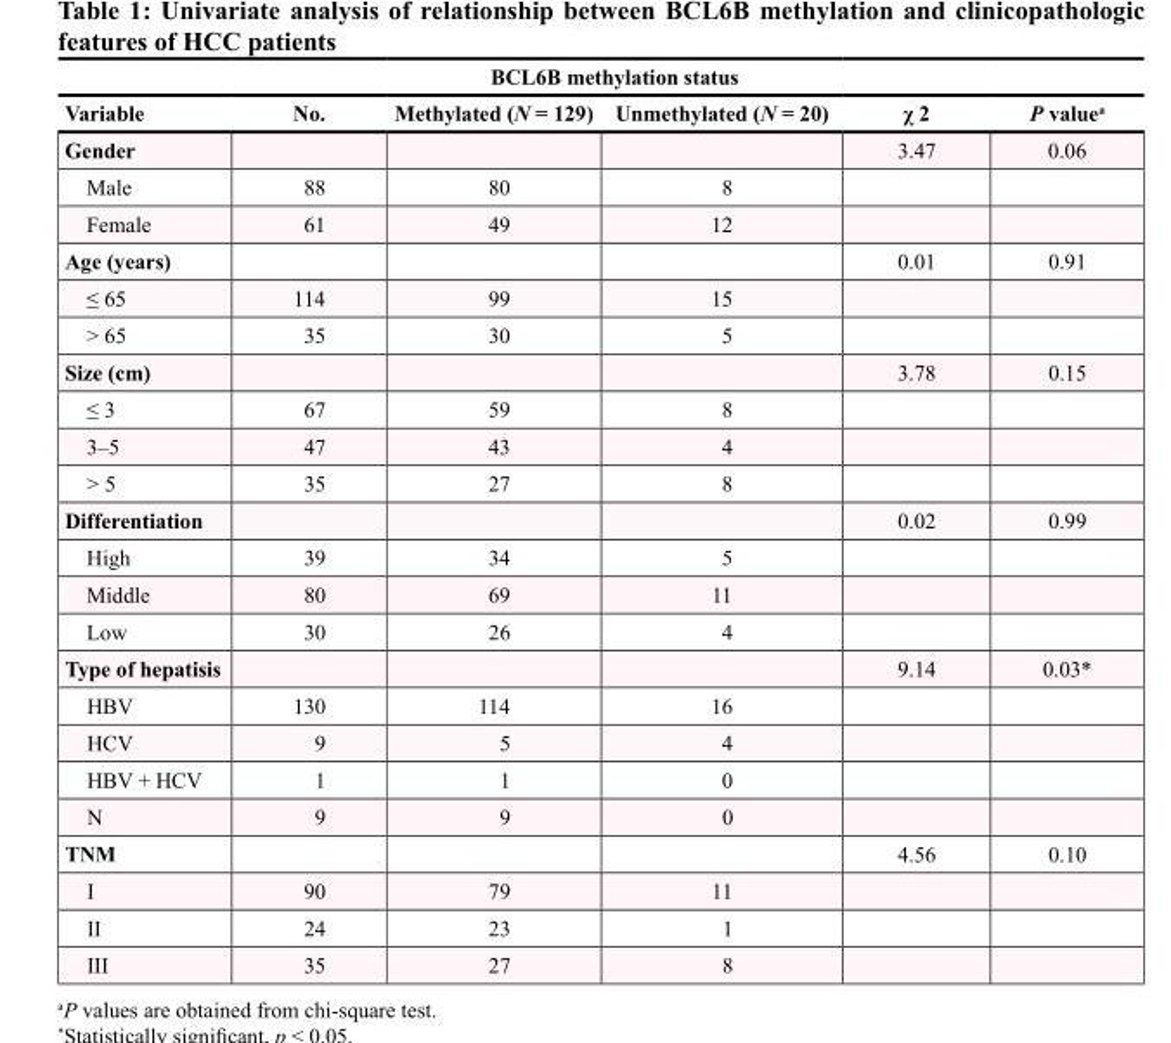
<table><thead><tr><td colspan="6">BCL6B methylation status</td></tr><tr><td>Variable</td><td>No.</td><td>Methylated (N = 129)</td><td>Unmethylated (N = 20)</td><td>χ 2</td><td>P value<sup>a</sup></td></tr></thead><tbody><tr><td>Gender</td><td></td><td></td><td></td><td>3.47</td><td>0.06</td></tr><tr><td>Male</td><td>88</td><td>80</td><td>8</td><td></td><td></td></tr><tr><td>Female</td><td>61</td><td>49</td><td>12</td><td></td><td></td></tr><tr><td>Age (years)</td><td></td><td></td><td></td><td>0.01</td><td>0.91</td></tr><tr><td>≤ 65</td><td>114</td><td>99</td><td>15</td><td></td><td></td></tr><tr><td>&gt; 65</td><td>35</td><td>30</td><td>5</td><td></td><td></td></tr><tr><td>Size (cm)</td><td></td><td></td><td></td><td>3.78</td><td>0.15</td></tr><tr><td>≤ 3</td><td>67</td><td>59</td><td>8</td><td></td><td></td></tr><tr><td>3–5</td><td>47</td><td>43</td><td>4</td><td></td><td></td></tr><tr><td>&gt; 5</td><td>35</td><td>27</td><td>8</td><td></td><td></td></tr><tr><td>Differentiation</td><td></td><td></td><td></td><td>0.02</td><td>0.99</td></tr><tr><td>High</td><td>39</td><td>34</td><td>5</td><td></td><td></td></tr><tr><td>Middle</td><td>80</td><td>69</td><td>11</td><td></td><td></td></tr><tr><td>Low</td><td>30</td><td>26</td><td>4</td><td></td><td></td></tr><tr><td>Type of hepatisis</td><td></td><td></td><td></td><td>9.14</td><td>0.03*</td></tr><tr><td>HBV</td><td>130</td><td>114</td><td>16</td><td></td><td></td></tr><tr><td>HCV</td><td>9</td><td>5</td><td>4</td><td></td><td></td></tr><tr><td>HBV + HCV</td><td>1</td><td>1</td><td>0</td><td></td><td></td></tr><tr><td>N</td><td>9</td><td>9</td><td>0</td><td></td><td></td></tr><tr><td>TNM</td><td></td><td></td><td></td><td>4.56</td><td>0.10</td></tr><tr><td>I</td><td>90</td><td>79</td><td>11</td><td></td><td></td></tr><tr><td>II</td><td>24</td><td>23</td><td>1</td><td></td><td></td></tr><tr><td>III</td><td>35</td><td>27</td><td>8</td><td></td><td></td></tr></tbody></table>